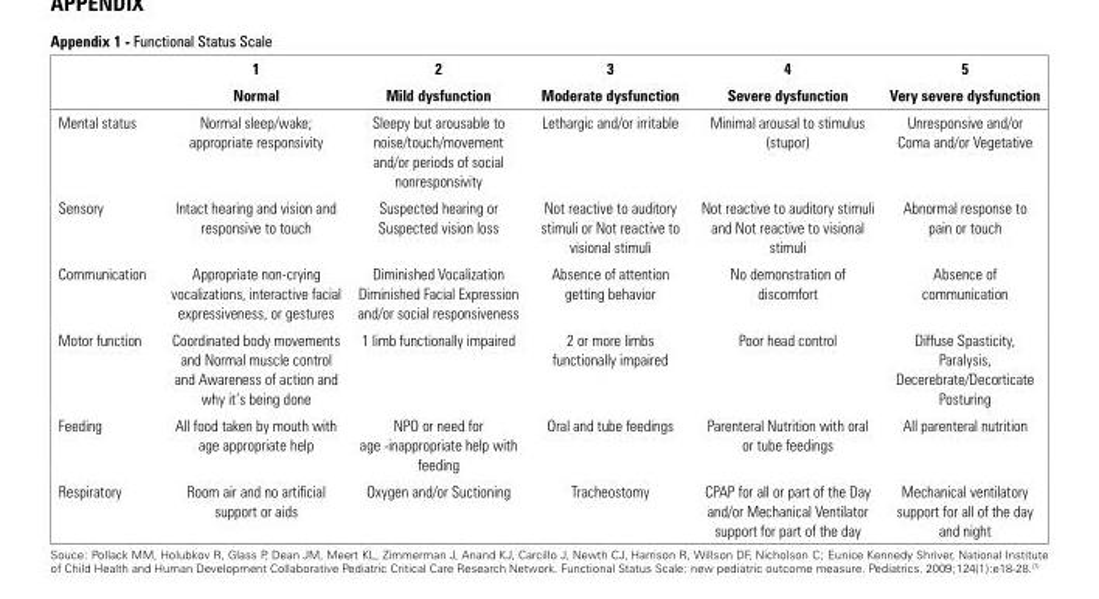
<table><thead><tr><td rowspan="2"></td><td rowspan="2">1 Normal</td><td rowspan="2">2 Mild dysfunction</td><td rowspan="2">3 Moderate dysfunction</td><td rowspan="2">4 Severe dysfunction</td><td rowspan="2">5 Very severe dysfunction</td></tr><tr></tr></thead><tbody><tr><td>Mental status</td><td>Normal sleep/wake; appropriate responsivity</td><td>Sleepy but arousable to noise/touch/movement and/or periods of social nonresponsivity</td><td>Lethargic and/or irritable</td><td>Minimal arousal to stimulus (stupor)</td><td>Unresponsive and/or Coma and/or Vegetative</td></tr><tr><td>Sensory</td><td>Intact hearing and vision and responsive to touch</td><td>Suspected hearing or Suspected vision loss</td><td>Not reactive to auditory stimuli or Not reactive to visional stimuli</td><td>Not reactive to auditory stimuli and Not reactive to visional stimuli</td><td>Abnormal response to pain or touch</td></tr><tr><td>Communication</td><td>Appropriate non-crying vocalizations, interactive facial expressiveness, or gestures</td><td>Diminished Vocalization Diminished Facial Expression and/or social responsiveness</td><td>Absence of attention getting behavior</td><td>No demonstration of discomfort</td><td>Absence of communication</td></tr><tr><td>Motor function</td><td>Coordinated body movements and Normal muscle control and Awareness of action and why it’s being done</td><td>1 limb functionally impaired</td><td>2 or more limbs functionally impaired</td><td>Poor head control</td><td>Diffuse Spasticity, Paralysis, Decerebrate/Decorticate Posturing</td></tr><tr><td>Feeding</td><td>All food taken by mouth with age appropriate help</td><td>NPO or need for age -inappropriate help with feeding</td><td>Oral and tube feedings</td><td>Parenteral Nutrition with oral or tube feedings</td><td>All parenteral nutrition</td></tr><tr><td>Respiratory</td><td>Room air and no artificial support or aids</td><td>Oxygen and/or Suctioning</td><td>Tracheostomy</td><td>CPAP for all or part of the Day and/or Mechanical Ventilator support for part of the day</td><td>Mechanical ventilatory support for all of the day and night</td></tr></tbody></table>